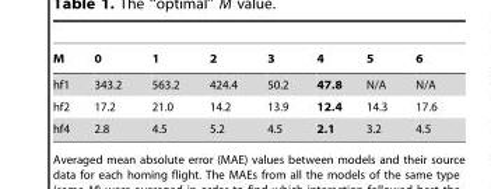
<table><thead><tr><td>M</td><td>0</td><td>1</td><td>2</td><td>3</td><td>4</td><td>5</td><td>6</td></tr></thead><tbody><tr><td>hf1</td><td>343.2</td><td>563.2</td><td>424.4</td><td>50.2</td><td>47.8</td><td>N/A</td><td>N/A</td></tr><tr><td>hf2</td><td>17.2</td><td>21.0</td><td>14.2</td><td>13.9</td><td>12.4</td><td>14.3</td><td>17.6</td></tr><tr><td>hf4</td><td>2.8</td><td>4.5</td><td>5.2</td><td>4.5</td><td>2.1</td><td>3.2</td><td>4.5</td></tr></tbody></table>